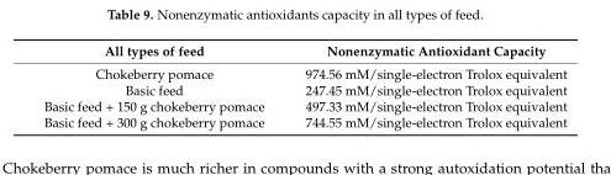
<table><thead><tr><td>All types of feed</td><td>Nonenzymatic Antioxidant Capacity</td></tr></thead><tbody><tr><td>Chokeberry pomace</td><td>974.56 mM/single-electron Trolox equivalent</td></tr><tr><td>Basic feed</td><td>247.45 mM/single-electron Trolox equivalent</td></tr><tr><td>Basic feed + 150 g chokeberry pomace</td><td>497.33 mM/single-electron Trolox equivalent</td></tr><tr><td>Basic feed + 300 g chokeberry pomace</td><td>744.55 mM/single-electron Trolox equivalent</td></tr></tbody></table>